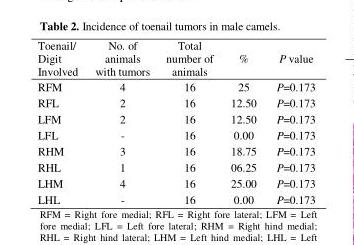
<table><thead><tr><td>Toenail/ Digit Involved</td><td>No. of animals with tumors</td><td>Total number of animals</td><td>%</td><td>P value</td></tr></thead><tbody><tr><td>RFM</td><td>4</td><td>16</td><td>25</td><td>P=0.173</td></tr><tr><td>RFL</td><td>2</td><td>16</td><td>12.50</td><td>P=0.173</td></tr><tr><td>LFM</td><td>2</td><td>16</td><td>12.50</td><td>P=0.173</td></tr><tr><td>LFL</td><td>-</td><td>16</td><td>0.00</td><td>P=0.173</td></tr><tr><td>RHM</td><td>3</td><td>16</td><td>18.75</td><td>P=0.173</td></tr><tr><td>RHL</td><td>1</td><td>16</td><td>06.25</td><td>P=0.173</td></tr><tr><td>LHM</td><td>4</td><td>16</td><td>25.00</td><td>P=0.173</td></tr><tr><td>LHL</td><td>-</td><td>16</td><td>0.00</td><td>P=0.173</td></tr></tbody></table>